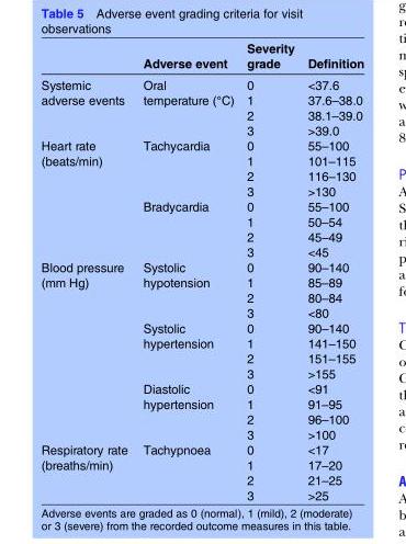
<table><thead><tr><td></td><td>Adverse event</td><td>Severity grade</td><td>Definition</td></tr></thead><tbody><tr><td rowspan="4">Systemic adverse events</td><td rowspan="4">Oral temperature (°C)</td><td>0</td><td>&lt;37.6</td></tr><tr><td>1</td><td>37.6–38.0</td></tr><tr><td>2</td><td>38.1–39.0</td></tr><tr><td>3</td><td>&gt;39.0</td></tr><tr><td rowspan="8">Heart rate (beats/min)</td><td rowspan="4">Tachycardia</td><td>0</td><td>55–100</td></tr><tr><td>1</td><td>101–115</td></tr><tr><td>2</td><td>116–130</td></tr><tr><td>3</td><td>&gt;130</td></tr><tr><td rowspan="4">Bradycardia</td><td>0</td><td>55–100</td></tr><tr><td>1</td><td>50–54</td></tr><tr><td>2</td><td>45–49</td></tr><tr><td>3</td><td>&lt;45</td></tr><tr><td rowspan="12">Blood pressure (mm Hg)</td><td rowspan="4">Systolic hypotension</td><td>0</td><td>90–140</td></tr><tr><td>1</td><td>85–89</td></tr><tr><td>2</td><td>80–84</td></tr><tr><td>3</td><td>&lt;80</td></tr><tr><td rowspan="4">Systolic hypertension</td><td>0</td><td>90–140</td></tr><tr><td>1</td><td>141–150</td></tr><tr><td>2</td><td>151–155</td></tr><tr><td>3</td><td>&gt;155</td></tr><tr><td rowspan="4">Diastolic hypertension</td><td>0</td><td>&lt;91</td></tr><tr><td>1</td><td>91–95</td></tr><tr><td>2</td><td>96–100</td></tr><tr><td>3</td><td>&gt;100</td></tr><tr><td rowspan="4">Respiratory rate (breaths/min)</td><td rowspan="4">Tachypnoea</td><td>0</td><td>&lt;17</td></tr><tr><td>1</td><td>17–20</td></tr><tr><td>2</td><td>21–25</td></tr><tr><td>3</td><td>&gt;25</td></tr></tbody></table>